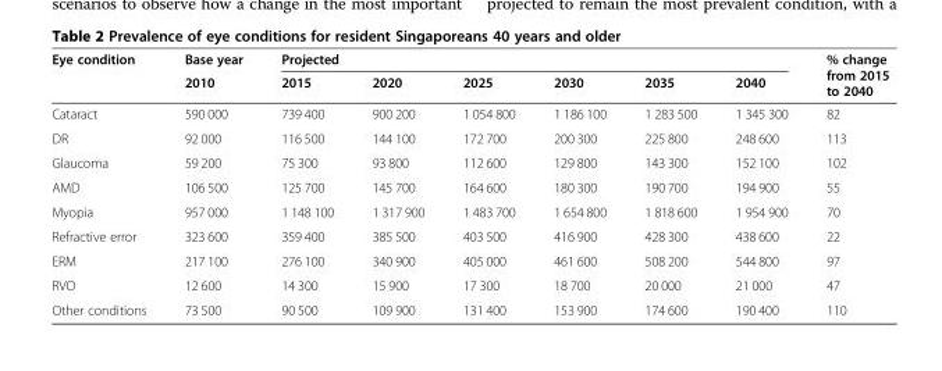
<table><thead><tr><td rowspan="2">Eye condition</td><td rowspan="2">Base year 2010</td><td colspan="6">Projected</td><td rowspan="2">% change from 2015 to 2040</td></tr><tr><td>2015</td><td>2020</td><td>2025</td><td>2030</td><td>2035</td><td>2040</td></tr></thead><tbody><tr><td>Cataract</td><td>590 000</td><td>739 400</td><td>900 200</td><td>1 054 800</td><td>1 186 100</td><td>1 283 500</td><td>1 345 300</td><td>82</td></tr><tr><td>DR</td><td>92 000</td><td>116 500</td><td>144 100</td><td>172 700</td><td>200 300</td><td>225 800</td><td>248 600</td><td>113</td></tr><tr><td>Glaucoma</td><td>59 200</td><td>75 300</td><td>93 800</td><td>112 600</td><td>129 800</td><td>143 300</td><td>152 100</td><td>102</td></tr><tr><td>AMD</td><td>106 500</td><td>125 700</td><td>145 700</td><td>164 600</td><td>180 300</td><td>190 700</td><td>194 900</td><td>55</td></tr><tr><td>Myopia</td><td>957 000</td><td>1 148 100</td><td>1 317 900</td><td>1 483 700</td><td>1 654 800</td><td>1 818 600</td><td>1 954 900</td><td>70</td></tr><tr><td>Refractive error</td><td>323 600</td><td>359 400</td><td>385 500</td><td>403 500</td><td>416 900</td><td>428 300</td><td>438 600</td><td>22</td></tr><tr><td>ERM</td><td>217 100</td><td>276 100</td><td>340 900</td><td>405 000</td><td>461 600</td><td>508 200</td><td>544 800</td><td>97</td></tr><tr><td>RVO</td><td>12 600</td><td>14 300</td><td>15 900</td><td>17 300</td><td>18 700</td><td>20 000</td><td>21 000</td><td>47</td></tr><tr><td>Other conditions</td><td>73 500</td><td>90 500</td><td>109 900</td><td>131 400</td><td>153 900</td><td>174 600</td><td>190 400</td><td>110</td></tr></tbody></table>